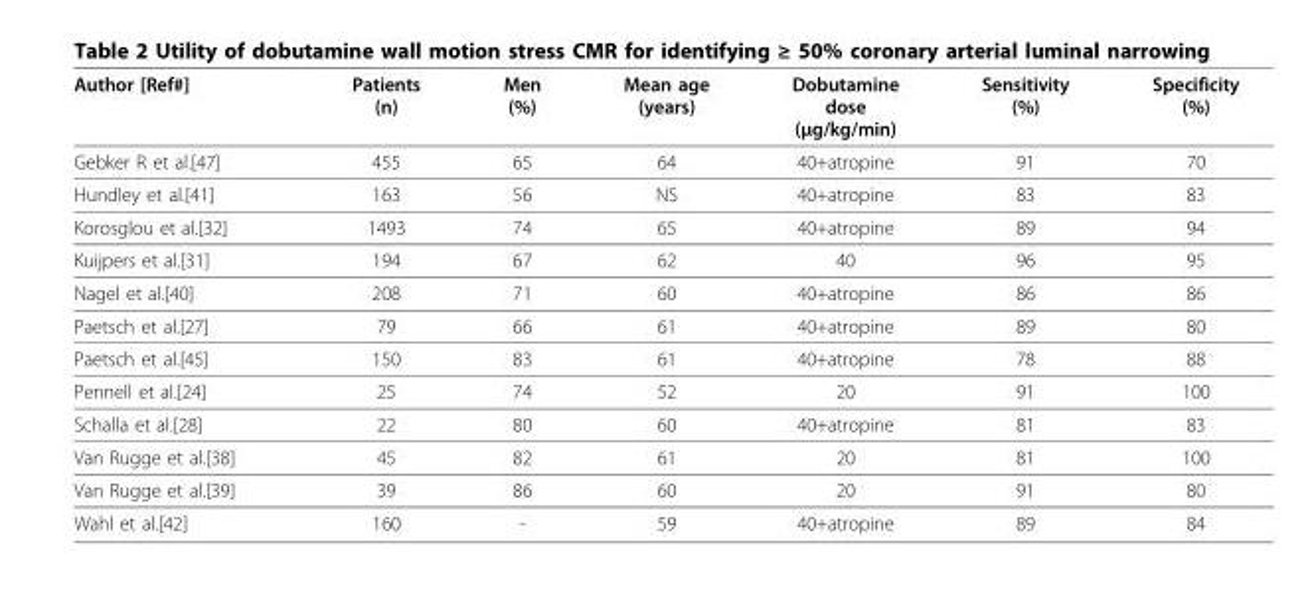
<table><thead><tr><td>Author [Ref#]</td><td>Patients (n)</td><td>Men (%)</td><td>Mean age (years)</td><td>Dobutamine dose (μg/kg/min)</td><td>Sensitivity (%)</td><td>Specificity (%)</td></tr></thead><tbody><tr><td>Gebker R et al.[47]</td><td>455</td><td>65</td><td>64</td><td>40+atropine</td><td>91</td><td>70</td></tr><tr><td>Hundley et al.[41]</td><td>163</td><td>56</td><td>NS</td><td>40+atropine</td><td>83</td><td>83</td></tr><tr><td>Korosglou et al.[32]</td><td>1493</td><td>74</td><td>65</td><td>40+atropine</td><td>89</td><td>94</td></tr><tr><td>Kuijpers et al.[31]</td><td>194</td><td>67</td><td>62</td><td>40</td><td>96</td><td>95</td></tr><tr><td>Nagel et al.[40]</td><td>208</td><td>71</td><td>60</td><td>40+atropine</td><td>86</td><td>86</td></tr><tr><td>Paetsch et al.[27]</td><td>79</td><td>66</td><td>61</td><td>40+atropine</td><td>89</td><td>80</td></tr><tr><td>Paetsch et al.[45]</td><td>150</td><td>83</td><td>61</td><td>40+atropine</td><td>78</td><td>88</td></tr><tr><td>Pennell et al.[24]</td><td>25</td><td>74</td><td>52</td><td>20</td><td>91</td><td>100</td></tr><tr><td>Schalla et al.[28]</td><td>22</td><td>80</td><td>60</td><td>40+atropine</td><td>81</td><td>83</td></tr><tr><td>Van Rugge et al.[38]</td><td>45</td><td>82</td><td>61</td><td>20</td><td>81</td><td>100</td></tr><tr><td>Van Rugge et al.[39]</td><td>39</td><td>86</td><td>60</td><td>20</td><td>91</td><td>80</td></tr><tr><td>Wahl et al.[42]</td><td>160</td><td>-</td><td>59</td><td>40+atropine</td><td>89</td><td>84</td></tr></tbody></table>